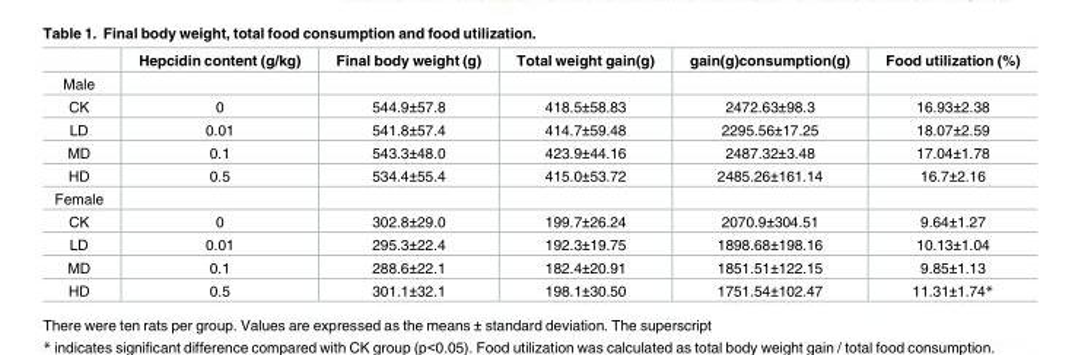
<table><thead><tr><td></td><td>Hepcidin content (g/kg)</td><td>Final body weight (g)</td><td>Total weight gain(g)</td><td>gain(g)consumption(g)</td><td>Food utilization (%)</td></tr></thead><tbody><tr><td colspan="6">Male</td></tr><tr><td>CK</td><td>0</td><td>544.9±57.8</td><td>418.5±58.83</td><td>2472.63±98.3</td><td>16.93±2.38</td></tr><tr><td>LD</td><td>0.01</td><td>541.8±57.4</td><td>414.7±59.48</td><td>2295.56±17.25</td><td>18.07±2.59</td></tr><tr><td>MD</td><td>0.1</td><td>543.3±48.0</td><td>423.9±44.16</td><td>2487.32±3.48</td><td>17.04±1.78</td></tr><tr><td>HD</td><td>0.5</td><td>534.4±55.4</td><td>415.0±53.72</td><td>2485.26±161.14</td><td>16.7±2.16</td></tr><tr><td colspan="6">Female</td></tr><tr><td>CK</td><td>0</td><td>302.8±29.0</td><td>199.7±26.24</td><td>2070.9±304.51</td><td>9.64±1.27</td></tr><tr><td>LD</td><td>0.01</td><td>295.3±22.4</td><td>192.3±19.75</td><td>1898.68±198.16</td><td>10.13±1.04</td></tr><tr><td>MD</td><td>0.1</td><td>288.6±22.1</td><td>182.4±20.91</td><td>1851.51±122.15</td><td>9.85±1.13</td></tr><tr><td>HD</td><td>0.5</td><td>301.1±32.1</td><td>198.1±30.50</td><td>1751.54±102.47</td><td>11.31±1.74*</td></tr></tbody></table>